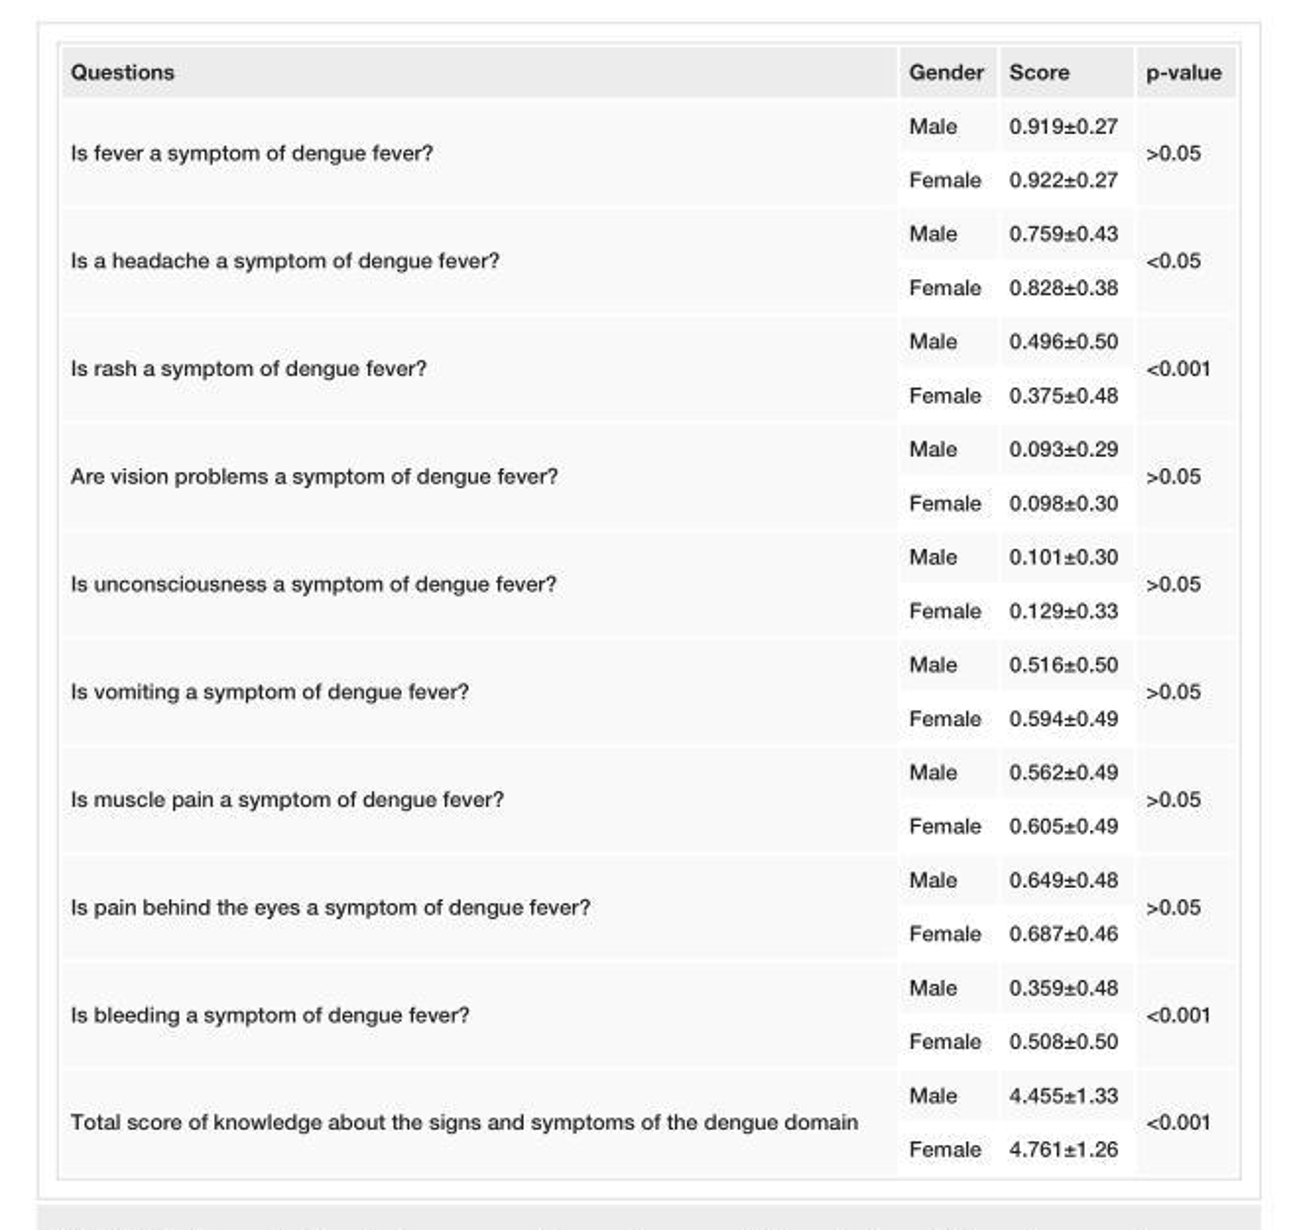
<table><tbody><tr><td>Questions</td><td>Gender</td><td>Score</td><td>p-value</td></tr><tr><td rowspan="2">Is fever a symptom of dengue fever?</td><td>Male</td><td>0.919±0.27</td><td rowspan="2">&gt;0.05</td></tr><tr><td>Female</td><td>0.922±0.27</td></tr><tr><td rowspan="2">Is a headache a symptom of dengue fever?</td><td>Male</td><td>0.759±0.43</td><td rowspan="2">&lt;0.05</td></tr><tr><td>Female</td><td>0.828±0.38</td></tr><tr><td rowspan="2">Is rash a symptom of dengue fever?</td><td>Male</td><td>0.496±0.50</td><td rowspan="2">&lt;0.001</td></tr><tr><td>Female</td><td>0.375±0.48</td></tr><tr><td rowspan="2">Are vision problems a symptom of dengue fever?</td><td>Male</td><td>0.093±0.29</td><td rowspan="2">&gt;0.05</td></tr><tr><td>Female</td><td>0.098±0.30</td></tr><tr><td rowspan="2">Is unconsciousness a symptom of dengue fever?</td><td>Male</td><td>0.101±0.30</td><td rowspan="2">&gt;0.05</td></tr><tr><td>Female</td><td>0.129±0.33</td></tr><tr><td rowspan="2">Is vomiting a symptom of dengue fever?</td><td>Male</td><td>0.516±0.50</td><td rowspan="2">&gt;0.05</td></tr><tr><td>Female</td><td>0.594±0.49</td></tr><tr><td rowspan="2">Is muscle pain a symptom of dengue fever?</td><td>Male</td><td>0.562±0.49</td><td rowspan="2">&gt;0.05</td></tr><tr><td>Female</td><td>0.605±0.49</td></tr><tr><td rowspan="2">Is pain behind the eyes a symptom of dengue fever?</td><td>Male</td><td>0.649±0.48</td><td rowspan="2">&gt;0.05</td></tr><tr><td>Female</td><td>0.687±0.46</td></tr><tr><td rowspan="2">Is bleeding a symptom of dengue fever?</td><td>Male</td><td>0.359±0.48</td><td rowspan="2">&lt;0.001</td></tr><tr><td>Female</td><td>0.508±0.50</td></tr><tr><td rowspan="2">Total score of knowledge about the signs and symptoms of the dengue domain</td><td>Male</td><td>4.455±1.33</td><td rowspan="2">&lt;0.001</td></tr><tr><td>Female</td><td>4.761±1.26</td></tr></tbody></table>